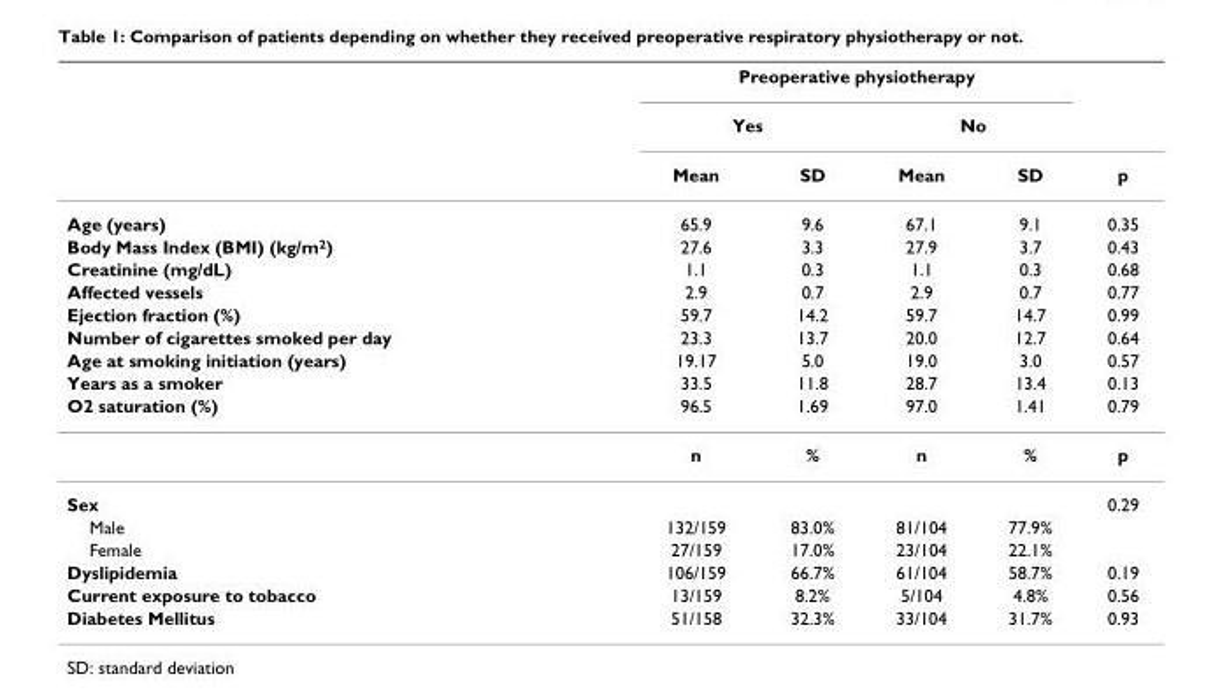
<table><thead><tr><td rowspan="3"></td><td colspan="4">Preoperative physiotherapy</td><td rowspan="3">p</td></tr><tr><td colspan="2">Yes</td><td colspan="2">No</td></tr><tr><td>Mean</td><td>SD</td><td>Mean</td><td>SD</td></tr></thead><tbody><tr><td>Age (years)</td><td>65.9</td><td>9.6</td><td>67.1</td><td>9.1</td><td>0.35</td></tr><tr><td>Body Mass Index (BMI) (kg/m<sup>2</sup>)</td><td>27.6</td><td>3.3</td><td>27.9</td><td>3.7</td><td>0.43</td></tr><tr><td>Creatinine (mg/dL)</td><td>1.1</td><td>0.3</td><td>1.1</td><td>0.3</td><td>0.68</td></tr><tr><td>Affected vessels</td><td>2.9</td><td>0.7</td><td>2.9</td><td>0.7</td><td>0.77</td></tr><tr><td>Ejection fraction (%)</td><td>59.7</td><td>14.2</td><td>59.7</td><td>14.7</td><td>0.99</td></tr><tr><td>Number of cigarettes smoked per day</td><td>23.3</td><td>13.7</td><td>20.0</td><td>12.7</td><td>0.64</td></tr><tr><td>Age at smoking initiation (years)</td><td>19.17</td><td>5.0</td><td>19.0</td><td>3.0</td><td>0.57</td></tr><tr><td>Years as a smoker</td><td>33.5</td><td>11.8</td><td>28.7</td><td>13.4</td><td>0.13</td></tr><tr><td rowspan="2">O2 saturation (%)</td><td>96.5</td><td>1.69</td><td>97.0</td><td>1.41</td><td>0.79</td></tr><tr><td>n</td><td>%</td><td>n</td><td>%</td><td>p</td></tr><tr><td>Sex</td><td></td><td></td><td></td><td></td><td>0.29</td></tr><tr><td>Male</td><td>132/159</td><td>83.0%</td><td>81/104</td><td>77.9%</td><td></td></tr><tr><td>Female</td><td>27/159</td><td>17.0%</td><td>23/104</td><td>22.1%</td><td></td></tr><tr><td>Dyslipidemia</td><td>106/159</td><td>66.7%</td><td>61/104</td><td>58.7%</td><td>0.19</td></tr><tr><td>Current exposure to tobacco</td><td>13/159</td><td>8.2%</td><td>5/104</td><td>4.8%</td><td>0.56</td></tr><tr><td>Diabetes Mellitus</td><td>51/158</td><td>32.3%</td><td>33/104</td><td>31.7%</td><td>0.93</td></tr></tbody></table>